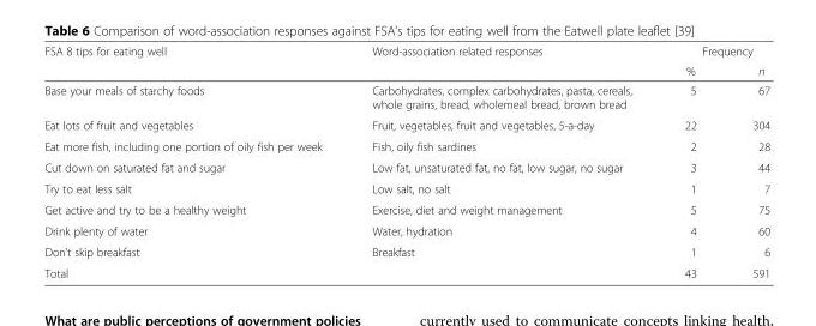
<table><thead><tr><td rowspan="2">FSA 8 tips for eating well</td><td rowspan="2">Word-association related responses</td><td colspan="2">Frequency</td></tr><tr><td>%</td><td>n</td></tr></thead><tbody><tr><td>Base your meals of starchy foods</td><td>Carbohydrates, complex carbohydrates, pasta, cereals, whole grains, bread, wholemeal bread, brown bread</td><td>5</td><td>67</td></tr><tr><td>Eat lots of fruit and vegetables</td><td>Fruit, vegetables, fruit and vegetables, 5-a-day</td><td>22</td><td>304</td></tr><tr><td>Eat more fish, including one portion of oily fish per week</td><td>Fish, oily fish sardines</td><td>2</td><td>28</td></tr><tr><td>Cut down on saturated fat and sugar</td><td>Low fat, unsaturated fat, no fat, low sugar, no sugar</td><td>3</td><td>44</td></tr><tr><td>Try to eat less salt</td><td>Low salt, no salt</td><td>1</td><td>7</td></tr><tr><td>Get active and try to be a healthy weight</td><td>Exercise, diet and weight management</td><td>5</td><td>75</td></tr><tr><td>Drink plenty of water</td><td>Water, hydration</td><td>4</td><td>60</td></tr><tr><td>Don’t skip breakfast</td><td>Breakfast</td><td>1</td><td>6</td></tr><tr><td>Total</td><td></td><td>43</td><td>591</td></tr></tbody></table>